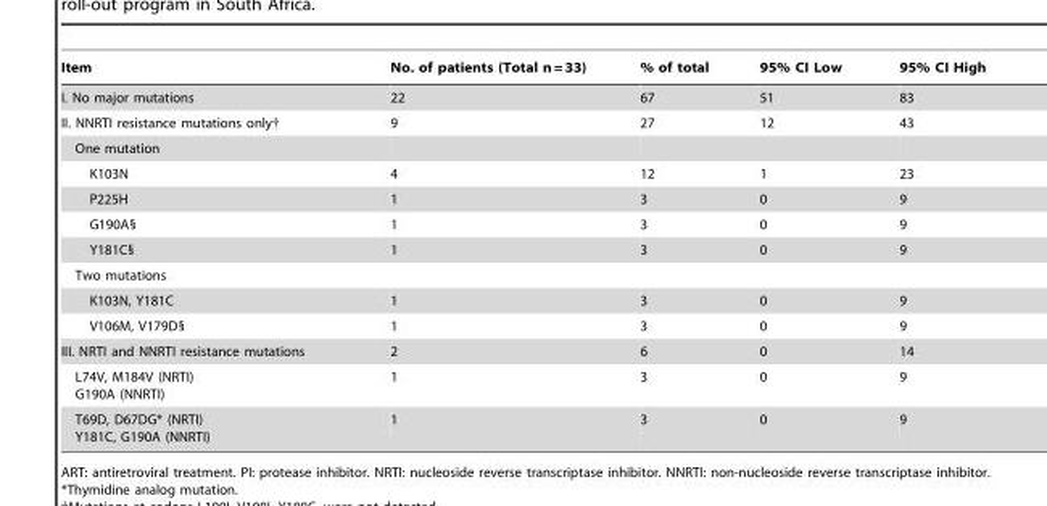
<table><thead><tr><td>Item</td><td>No. of patients (Total n = 33)</td><td>% of total</td><td>95% CI Low</td><td>95% CI High</td></tr></thead><tbody><tr><td>I. No major mutations</td><td>22</td><td>67</td><td>51</td><td>83</td></tr><tr><td>II. NNRTI resistance mutations only†</td><td>9</td><td>27</td><td>12</td><td>43</td></tr><tr><td colspan="5">One mutation</td></tr><tr><td>K103N</td><td>4</td><td>12</td><td>1</td><td>23</td></tr><tr><td>P225H</td><td>1</td><td>3</td><td>0</td><td>9</td></tr><tr><td>G190A§</td><td>1</td><td>3</td><td>0</td><td>9</td></tr><tr><td>Y181C§</td><td>1</td><td>3</td><td>0</td><td>9</td></tr><tr><td colspan="5">Two mutations</td></tr><tr><td>K103N, Y181C</td><td>1</td><td>3</td><td>0</td><td>9</td></tr><tr><td>V106M, V179D§</td><td>1</td><td>3</td><td>0</td><td>9</td></tr><tr><td>III. NRTI and NNRTI resistance mutations</td><td>2</td><td>6</td><td>0</td><td>14</td></tr><tr><td>L74V, M184V (NRTI) G190A (NNRTI)</td><td>1</td><td>3</td><td>0</td><td>9</td></tr><tr><td>T69D, D67DG* (NRTI) Y181C, G190A (NNRTI)</td><td>1</td><td>3</td><td>0</td><td>9</td></tr></tbody></table>